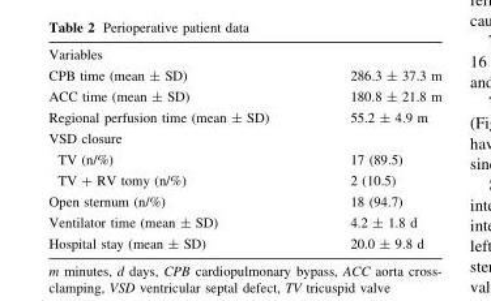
<table><tbody><tr><td colspan="2">Variables</td></tr><tr><td>CPB time (mean ± SD)</td><td>286.3 ± 37.3 m</td></tr><tr><td>ACC time (mean ± SD)</td><td>180.8 ± 21.8 m</td></tr><tr><td>Regional perfusion time (mean ± SD)</td><td>55.2 ± 4.9 m</td></tr><tr><td colspan="2">VSD closure</td></tr><tr><td>TV (n/%)</td><td>17 (89.5)</td></tr><tr><td>TV + RV tomy (n/%)</td><td>2 (10.5)</td></tr><tr><td>Open sternum (n/%)</td><td>18 (94.7)</td></tr><tr><td>Ventilator time (mean ± SD)</td><td>4.2 ± 1.8 d</td></tr><tr><td>Hospital stay (mean ± SD)</td><td>20.0 ± 9.8 d</td></tr></tbody></table>